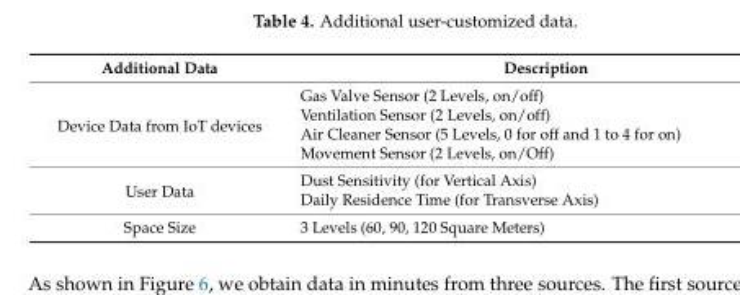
<table><thead><tr><td>Additional Data</td><td>Description</td></tr></thead><tbody><tr><td rowspan="4">Device Data from IoT devices</td><td>Gas Valve Sensor (2 Levels, on/off)</td></tr><tr><td>Ventilation Sensor (2 Levels, on/off)</td></tr><tr><td>Air Cleaner Sensor (5 Levels, 0 for off and 1 to 4 for on)</td></tr><tr><td>Movement Sensor (2 Levels, on/Off)</td></tr><tr><td rowspan="2">User Data</td><td>Dust Sensitivity (for Vertical Axis)</td></tr><tr><td>Daily Residence Time (for Transverse Axis)</td></tr><tr><td>Space Size</td><td>3 Levels (60, 90, 120 Square Meters)</td></tr></tbody></table>